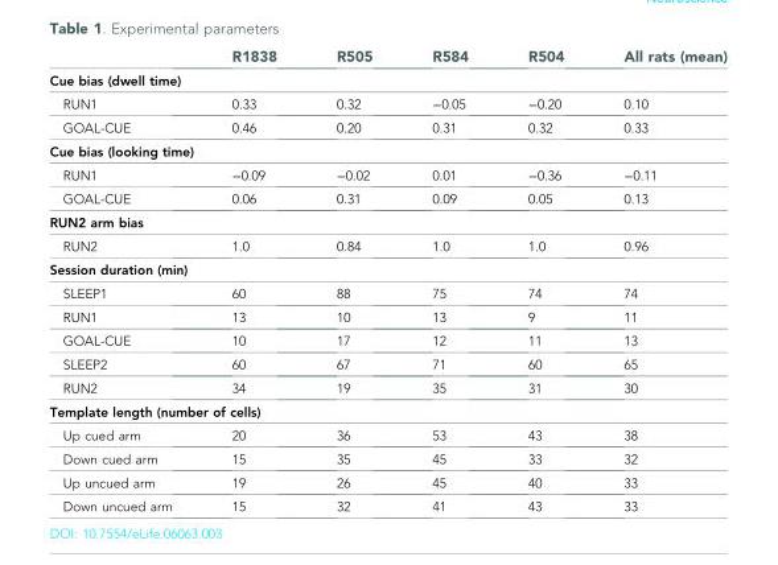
<table><thead><tr><td></td><td>R1838</td><td>R505</td><td>R584</td><td>R504</td><td>All rats (mean)</td></tr></thead><tbody><tr><td colspan="6">Cue bias (dwell time)</td></tr><tr><td>RUN1</td><td>0.33</td><td>0.32</td><td>−0.05</td><td>−0.20</td><td>0.10</td></tr><tr><td>GOAL-CUE</td><td>0.46</td><td>0.20</td><td>0.31</td><td>0.32</td><td>0.33</td></tr><tr><td colspan="6">Cue bias (looking time)</td></tr><tr><td>RUN1</td><td>−0.09</td><td>−0.02</td><td>0.01</td><td>−0.36</td><td>−0.11</td></tr><tr><td>GOAL-CUE</td><td>0.06</td><td>0.31</td><td>0.09</td><td>0.05</td><td>0.13</td></tr><tr><td colspan="6">RUN2 arm bias</td></tr><tr><td>RUN2</td><td>1.0</td><td>0.84</td><td>1.0</td><td>1.0</td><td>0.96</td></tr><tr><td colspan="6">Session duration (min)</td></tr><tr><td>SLEEP1</td><td>60</td><td>88</td><td>75</td><td>74</td><td>74</td></tr><tr><td>RUN1</td><td>13</td><td>10</td><td>13</td><td>9</td><td>11</td></tr><tr><td>GOAL-CUE</td><td>10</td><td>17</td><td>12</td><td>11</td><td>13</td></tr><tr><td>SLEEP2</td><td>60</td><td>67</td><td>71</td><td>60</td><td>65</td></tr><tr><td>RUN2</td><td>34</td><td>19</td><td>35</td><td>31</td><td>30</td></tr><tr><td colspan="6">Template length (number of cells)</td></tr><tr><td>Up cued arm</td><td>20</td><td>36</td><td>53</td><td>43</td><td>38</td></tr><tr><td>Down cued arm</td><td>15</td><td>35</td><td>45</td><td>33</td><td>32</td></tr><tr><td>Up uncued arm</td><td>19</td><td>26</td><td>45</td><td>40</td><td>33</td></tr><tr><td>Down uncued arm</td><td>15</td><td>32</td><td>41</td><td>43</td><td>33</td></tr></tbody></table>